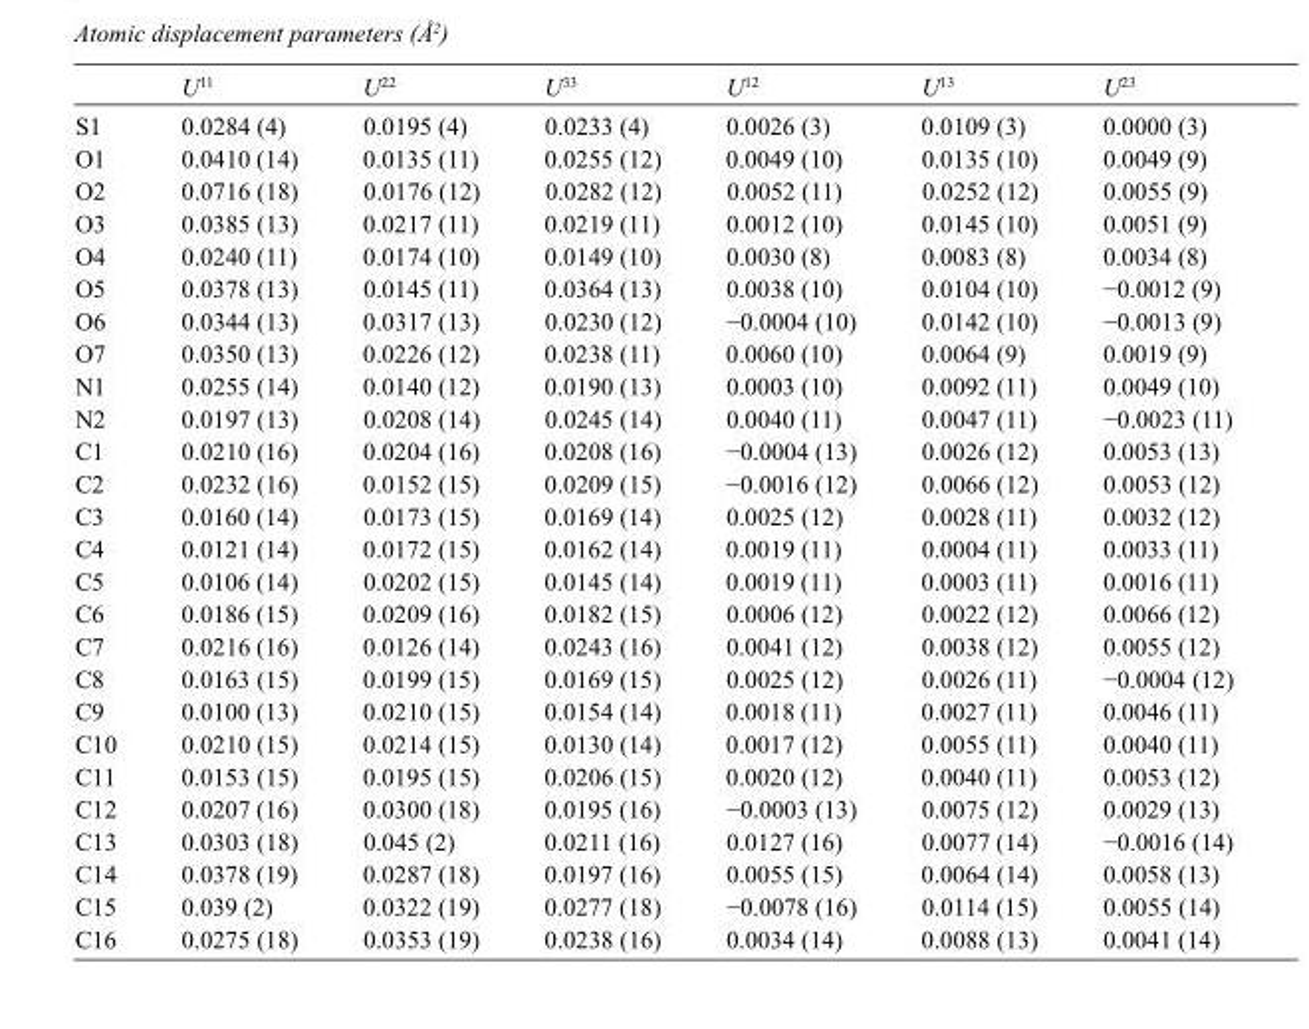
<table><thead><tr><td></td><td>U<sup>11</sup></td><td>U<sup>22</sup></td><td>U<sup>33</sup></td><td>U<sup>12</sup></td><td>U<sup>13</sup></td><td>U<sup>23</sup></td></tr></thead><tbody><tr><td>S1</td><td>0.0284 (4)</td><td>0.0195 (4)</td><td>0.0233 (4)</td><td>0.0026 (3)</td><td>0.0109 (3)</td><td>0.0000 (3)</td></tr><tr><td>O1</td><td>0.0410 (14)</td><td>0.0135 (11)</td><td>0.0255 (12)</td><td>0.0049 (10)</td><td>0.0135 (10)</td><td>0.0049 (9)</td></tr><tr><td>O2</td><td>0.0716 (18)</td><td>0.0176 (12)</td><td>0.0282 (12)</td><td>0.0052 (11)</td><td>0.0252 (12)</td><td>0.0055 (9)</td></tr><tr><td>O3</td><td>0.0385 (13)</td><td>0.0217 (11)</td><td>0.0219 (11)</td><td>0.0012 (10)</td><td>0.0145 (10)</td><td>0.0051 (9)</td></tr><tr><td>O4</td><td>0.0240 (11)</td><td>0.0174 (10)</td><td>0.0149 (10)</td><td>0.0030 (8)</td><td>0.0083 (8)</td><td>0.0034 (8)</td></tr><tr><td>O5</td><td>0.0378 (13)</td><td>0.0145 (11)</td><td>0.0364 (13)</td><td>0.0038 (10)</td><td>0.0104 (10)</td><td>−0.0012 (9)</td></tr><tr><td>O6</td><td>0.0344 (13)</td><td>0.0317 (13)</td><td>0.0230 (12)</td><td>−0.0004 (10)</td><td>0.0142 (10)</td><td>−0.0013 (9)</td></tr><tr><td>O7</td><td>0.0350 (13)</td><td>0.0226 (12)</td><td>0.0238 (11)</td><td>0.0060 (10)</td><td>0.0064 (9)</td><td>0.0019 (9)</td></tr><tr><td>N1</td><td>0.0255 (14)</td><td>0.0140 (12)</td><td>0.0190 (13)</td><td>0.0003 (10)</td><td>0.0092 (11)</td><td>0.0049 (10)</td></tr><tr><td>N2</td><td>0.0197 (13)</td><td>0.0208 (14)</td><td>0.0245 (14)</td><td>0.0040 (11)</td><td>0.0047 (11)</td><td>−0.0023 (11)</td></tr><tr><td>C1</td><td>0.0210 (16)</td><td>0.0204 (16)</td><td>0.0208 (16)</td><td>−0.0004 (13)</td><td>0.0026 (12)</td><td>0.0053 (13)</td></tr><tr><td>C2</td><td>0.0232 (16)</td><td>0.0152 (15)</td><td>0.0209 (15)</td><td>−0.0016 (12)</td><td>0.0066 (12)</td><td>0.0053 (12)</td></tr><tr><td>C3</td><td>0.0160 (14)</td><td>0.0173 (15)</td><td>0.0169 (14)</td><td>0.0025 (12)</td><td>0.0028 (11)</td><td>0.0032 (12)</td></tr><tr><td>C4</td><td>0.0121 (14)</td><td>0.0172 (15)</td><td>0.0162 (14)</td><td>0.0019 (11)</td><td>0.0004 (11)</td><td>0.0033 (11)</td></tr><tr><td>C5</td><td>0.0106 (14)</td><td>0.0202 (15)</td><td>0.0145 (14)</td><td>0.0019 (11)</td><td>0.0003 (11)</td><td>0.0016 (11)</td></tr><tr><td>C6</td><td>0.0186 (15)</td><td>0.0209 (16)</td><td>0.0182 (15)</td><td>0.0006 (12)</td><td>0.0022 (12)</td><td>0.0066 (12)</td></tr><tr><td>C7</td><td>0.0216 (16)</td><td>0.0126 (14)</td><td>0.0243 (16)</td><td>0.0041 (12)</td><td>0.0038 (12)</td><td>0.0055 (12)</td></tr><tr><td>C8</td><td>0.0163 (15)</td><td>0.0199 (15)</td><td>0.0169 (15)</td><td>0.0025 (12)</td><td>0.0026 (11)</td><td>−0.0004 (12)</td></tr><tr><td>C9</td><td>0.0100 (13)</td><td>0.0210 (15)</td><td>0.0154 (14)</td><td>0.0018 (11)</td><td>0.0027 (11)</td><td>0.0046 (11)</td></tr><tr><td>C10</td><td>0.0210 (15)</td><td>0.0214 (15)</td><td>0.0130 (14)</td><td>0.0017 (12)</td><td>0.0055 (11)</td><td>0.0040 (11)</td></tr><tr><td>C11</td><td>0.0153 (15)</td><td>0.0195 (15)</td><td>0.0206 (15)</td><td>0.0020 (12)</td><td>0.0040 (11)</td><td>0.0053 (12)</td></tr><tr><td>C12</td><td>0.0207 (16)</td><td>0.0300 (18)</td><td>0.0195 (16)</td><td>−0.0003 (13)</td><td>0.0075 (12)</td><td>0.0029 (13)</td></tr><tr><td>C13</td><td>0.0303 (18)</td><td>0.045 (2)</td><td>0.0211 (16)</td><td>0.0127 (16)</td><td>0.0077 (14)</td><td>−0.0016 (14)</td></tr><tr><td>C14</td><td>0.0378 (19)</td><td>0.0287 (18)</td><td>0.0197 (16)</td><td>0.0055 (15)</td><td>0.0064 (14)</td><td>0.0058 (13)</td></tr><tr><td>C15</td><td>0.039 (2)</td><td>0.0322 (19)</td><td>0.0277 (18)</td><td>−0.0078 (16)</td><td>0.0114 (15)</td><td>0.0055 (14)</td></tr><tr><td>C16</td><td>0.0275 (18)</td><td>0.0353 (19)</td><td>0.0238 (16)</td><td>0.0034 (14)</td><td>0.0088 (13)</td><td>0.0041 (14)</td></tr></tbody></table>